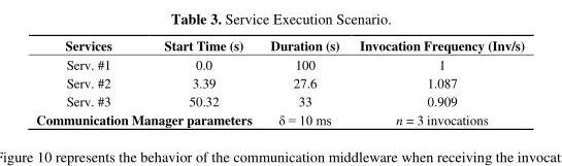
<table><thead><tr><td>Services</td><td>Start Time (s)</td><td>Duration (s)</td><td>Invocation Frequency (Inv/s)</td></tr></thead><tbody><tr><td>Serv. #1</td><td>0.0</td><td>100</td><td>1</td></tr><tr><td>Serv. #2</td><td>3.39</td><td>27.6</td><td>1.087</td></tr><tr><td>Serv. #3</td><td>50.32</td><td>33</td><td>0.909</td></tr><tr><td colspan="2">Communication Manager parameters</td><td>δ = 10 ms</td><td>n = 3 invocations</td></tr></tbody></table>